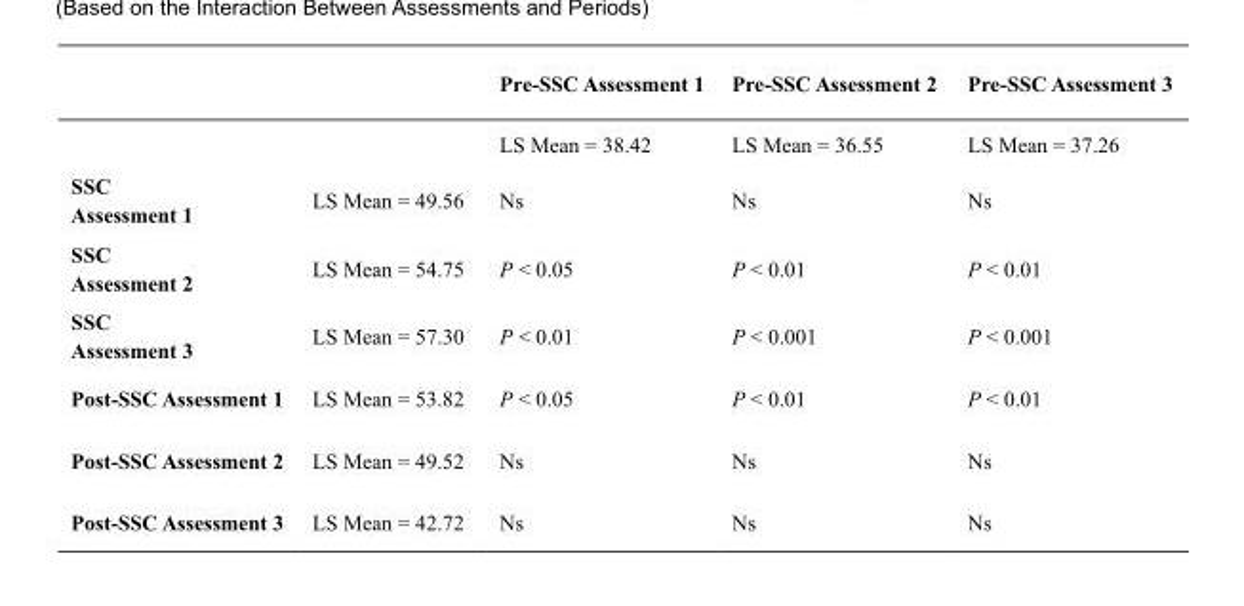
<table><thead><tr><td></td><td></td><td>Pre-SSC Assessment 1</td><td>Pre-SSC Assessment 2</td><td>Pre-SSC Assessment 3</td></tr></thead><tbody><tr><td></td><td></td><td>LS Mean = 38.42</td><td>LS Mean = 36.55</td><td>LS Mean = 37.26</td></tr><tr><td>SSC Assessment 1</td><td>LS Mean = 49.56</td><td>Ns</td><td>Ns</td><td>Ns</td></tr><tr><td>SSC Assessment 2</td><td>LS Mean = 54.75</td><td>P &lt; 0.05</td><td>P &lt; 0.01</td><td>P &lt; 0.01</td></tr><tr><td>SSC Assessment 3</td><td>LS Mean = 57.30</td><td>P &lt; 0.01</td><td>P &lt; 0.001</td><td>P &lt; 0.001</td></tr><tr><td>Post-SSC Assessment 1</td><td>LS Mean = 53.82</td><td>P &lt; 0.05</td><td>P &lt; 0.01</td><td>P &lt; 0.01</td></tr><tr><td>Post-SSC Assessment 2</td><td>LS Mean = 49.52</td><td>Ns</td><td>Ns</td><td>Ns</td></tr><tr><td>Post-SSC Assessment 3</td><td>LS Mean = 42.72</td><td>Ns</td><td>Ns</td><td>Ns</td></tr></tbody></table>